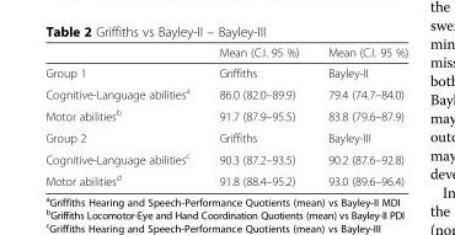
<table><thead><tr><td></td><td>Mean (C.I. 95 %)</td><td>Mean (C.I. 95 %)</td></tr></thead><tbody><tr><td>Group 1</td><td>Griffiths</td><td>Bayley-II</td></tr><tr><td>Cognitive-Language abilities<sup>a</sup></td><td>86.0 (82.0–89.9)</td><td>79.4 (74.7–84.0)</td></tr><tr><td>Motor abilities<sup>b</sup></td><td>91.7 (87.9–95.5)</td><td>83.8 (79.6–87.9)</td></tr><tr><td>Group 2</td><td>Griffiths</td><td>Bayley-III</td></tr><tr><td>Cognitive-Language abilities<sup>c</sup></td><td>90.3 (87.2–93.5)</td><td>90.2 (87.6–92.8)</td></tr><tr><td>Motor abilities<sup>d</sup></td><td>91.8 (88.4–95.2)</td><td>93.0 (89.6–96.4)</td></tr></tbody></table>